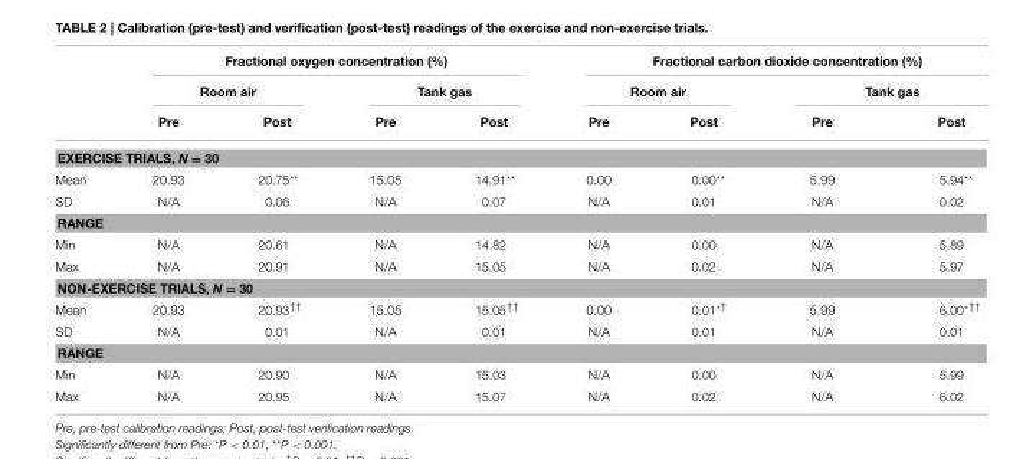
<table><thead><tr><td rowspan="3"></td><td colspan="4">Fractional oxygen concentration (%)</td><td colspan="4">Fractional carbon dioxide concentration (%)</td></tr><tr><td colspan="2">Room air</td><td colspan="2">Tank gas</td><td colspan="2">Room air</td><td colspan="2">Tank gas</td></tr><tr><td>Pre</td><td>Post</td><td>Pre</td><td>Post</td><td>Pre</td><td>Post</td><td>Pre</td><td>Post</td></tr></thead><tbody><tr><td colspan="9">EXERCISE TRIALS, N = 30</td></tr><tr><td>Mean</td><td>20.93</td><td>20.75**</td><td>15.05</td><td>14.91**</td><td>0.00</td><td>0.00**</td><td>5.99</td><td>5.94**</td></tr><tr><td>SD</td><td>N/A</td><td>0.06</td><td>N/A</td><td>0.07</td><td>N/A</td><td>0.01</td><td>N/A</td><td>0.02</td></tr><tr><td colspan="9">RANGE</td></tr><tr><td>Min</td><td>N/A</td><td>20.61</td><td>N/A</td><td>14.82</td><td>N/A</td><td>0.00</td><td>N/A</td><td>5.89</td></tr><tr><td>Max</td><td>N/A</td><td>20.91</td><td>N/A</td><td>15.05</td><td>N/A</td><td>0.02</td><td>N/A</td><td>5.97</td></tr><tr><td colspan="9">NON-EXERCISE TRIALS, N = 30</td></tr><tr><td>Mean</td><td>20.93</td><td>20.93<sup>††</sup></td><td>15.05</td><td>15.05<sup>††</sup></td><td>0.00</td><td>0.01<sup>*†</sup></td><td>5.99</td><td>6.00<sup>*††</sup></td></tr><tr><td>SD</td><td>N/A</td><td>0.01</td><td>N/A</td><td>0.01</td><td>N/A</td><td>0.01</td><td>N/A</td><td>0.01</td></tr><tr><td colspan="9">RANGE</td></tr><tr><td>Min</td><td>N/A</td><td>20.90</td><td>N/A</td><td>15.03</td><td>N/A</td><td>0.00</td><td>N/A</td><td>5.99</td></tr><tr><td>Max</td><td>N/A</td><td>20.95</td><td>N/A</td><td>15.07</td><td>N/A</td><td>0.02</td><td>N/A</td><td>6.02</td></tr></tbody></table>